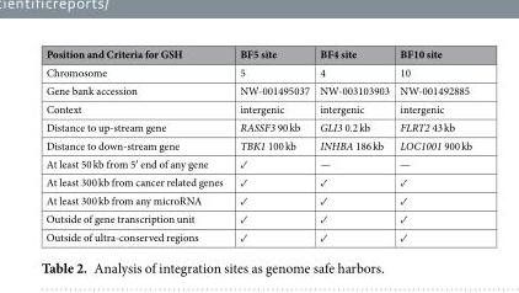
<table><thead><tr><td>Position and Criteria for GSH</td><td>BF5 site</td><td>BF4 site</td><td>BF10 site</td></tr></thead><tbody><tr><td>Chromosome</td><td>5</td><td>4</td><td>10</td></tr><tr><td>Gene bank accession</td><td>NW-001495037</td><td>NW-003103903</td><td>NW-001492885</td></tr><tr><td>Context</td><td>intergenic</td><td>intergenic</td><td>intergenic</td></tr><tr><td>Distance to up-stream gene</td><td>RASSF3 90 kb</td><td>GLI3 0.2 kb</td><td>FLRT2 43 kb</td></tr><tr><td>Distance to down-stream gene</td><td>TBK1 100 kb</td><td>INHBA 186 kb</td><td>LOC1001 900 kb</td></tr><tr><td>At least 50 kb from 5′ end of any gene</td><td>✓</td><td>—</td><td>—</td></tr><tr><td>At least 300 kb from cancer related genes</td><td>✓</td><td>✓</td><td>✓</td></tr><tr><td>At least 300 kb from any microRNA</td><td>✓</td><td>✓</td><td>✓</td></tr><tr><td>Outside of gene transcription unit</td><td>✓</td><td>✓</td><td>✓</td></tr><tr><td>Outside of ultra-conserved regions</td><td>✓</td><td>✓</td><td>✓</td></tr></tbody></table>